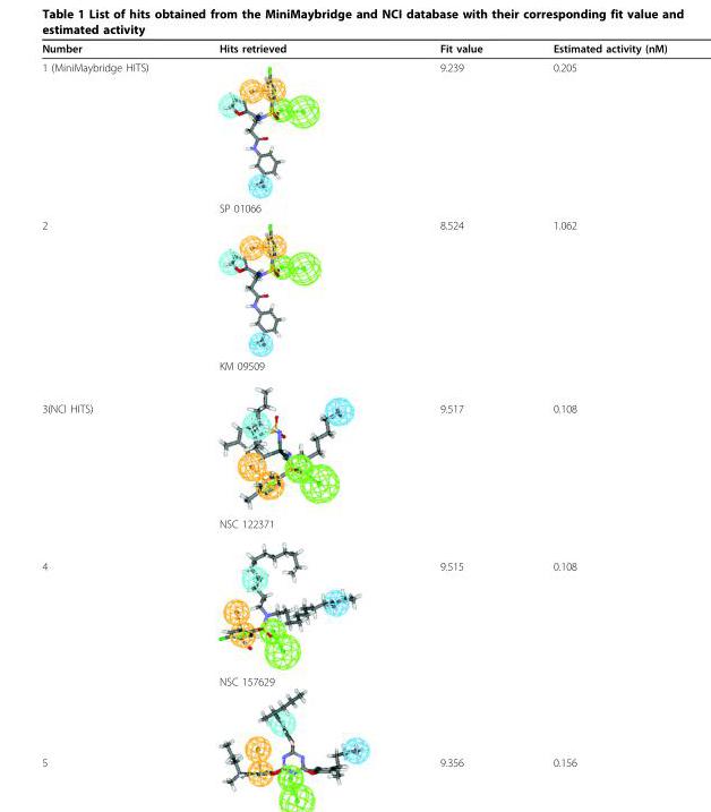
<table><thead><tr><td>Number</td><td>Hits retrieved</td><td>Fit value</td><td>Estimated activity (nM)</td></tr></thead><tbody><tr><td>1 (MiniMaybridge HITS)</td><td>SP 01066</td><td>9.239</td><td>0.205</td></tr><tr><td>2</td><td>KM 09509</td><td>8.524</td><td>1.062</td></tr><tr><td>3(NCI HITS)</td><td>NSC 122371</td><td>9.517</td><td>0.108</td></tr><tr><td>4</td><td>NSC 157629</td><td>9.515</td><td>0.108</td></tr><tr><td>5</td><td></td><td>9.356</td><td>0.156</td></tr></tbody></table>